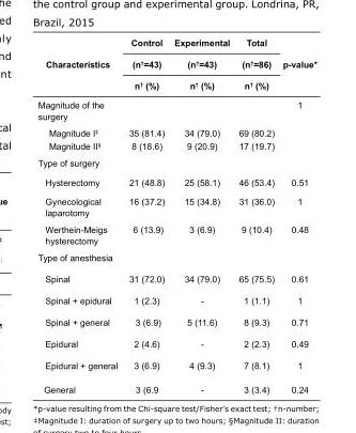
<table><tbody><tr><td rowspan="3">Characteristics</td><td>Control</td><td>Experimental</td><td>Total</td><td rowspan="3">p-value*</td></tr><tr><td>(n<sup>†</sup>=43)</td><td>(n<sup>†</sup>=43)</td><td>(n<sup>†</sup>=86)</td></tr><tr><td>n<sup>†</sup> (%)</td><td>n<sup>†</sup> (%)</td><td>n<sup>†</sup> (%)</td></tr><tr><td>Magnitude of the surgery</td><td></td><td></td><td></td><td>1</td></tr><tr><td>Magnitude I<sup>‡</sup> Magnitude II<sup>§</sup></td><td>35 (81.4) 8 (18.6)</td><td>34 (79.0) 9 (20.9)</td><td>69 (80.2) 17 (19.7)</td><td></td></tr><tr><td colspan="5">Type of surgery</td></tr><tr><td>Hysterectomy</td><td>21 (48.8)</td><td>25 (58.1)</td><td>46 (53.4)</td><td>0.51</td></tr><tr><td>Gynecological laparotomy</td><td>16 (37.2)</td><td>15 (34.8)</td><td>31 (36.0)</td><td>1</td></tr><tr><td>Werthein-Meigs hysterectomy</td><td>6 (13.9)</td><td>3 (6.9)</td><td>9 (10.4)</td><td>0.48</td></tr><tr><td colspan="5">Type of anesthesia</td></tr><tr><td>Spinal</td><td>31 (72.0)</td><td>34 (79.0)</td><td>65 (75.5)</td><td>0.61</td></tr><tr><td>Spinal + epidural</td><td>1 (2.3)</td><td>-</td><td>1 (1.1)</td><td>1</td></tr><tr><td>Spinal + general</td><td>3 (6.9)</td><td>5 (11.6)</td><td>8 (9.3)</td><td>0.71</td></tr><tr><td>Epidural</td><td>2 (4.6)</td><td>-</td><td>2 (2.3)</td><td>0.49</td></tr><tr><td>Epidural + general</td><td>3 (6.9)</td><td>4 (9.3)</td><td>7 (8.1)</td><td>1</td></tr><tr><td>General</td><td>3 (6.9</td><td>-</td><td>3 (3.4)</td><td>0.24</td></tr></tbody></table>